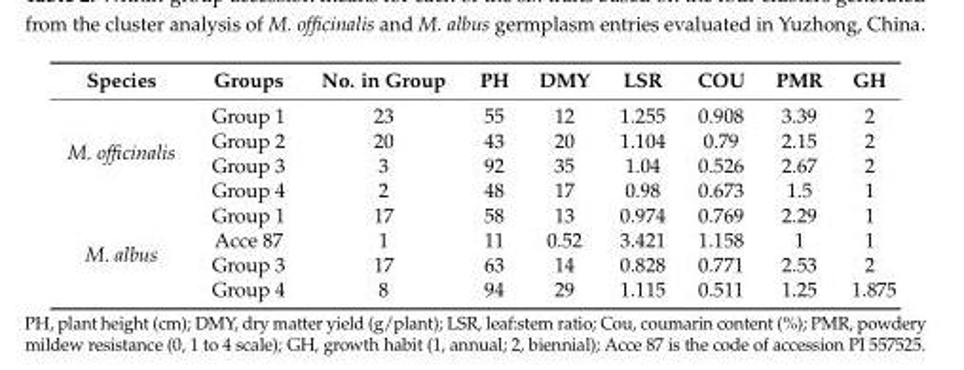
<table><thead><tr><td>Species</td><td>Groups</td><td>No. in Group</td><td>PH</td><td>DMY</td><td>LSR</td><td>COU</td><td>PMR</td><td>GH</td></tr></thead><tbody><tr><td rowspan="4">M. officinalis</td><td>Group 1</td><td>23</td><td>55</td><td>12</td><td>1.255</td><td>0.908</td><td>3.39</td><td>2</td></tr><tr><td>Group 2</td><td>20</td><td>43</td><td>20</td><td>1.104</td><td>0.79</td><td>2.15</td><td>2</td></tr><tr><td>Group 3</td><td>3</td><td>92</td><td>35</td><td>1.04</td><td>0.526</td><td>2.67</td><td>2</td></tr><tr><td>Group 4</td><td>2</td><td>48</td><td>17</td><td>0.98</td><td>0.673</td><td>1.5</td><td>1</td></tr><tr><td rowspan="4">M. albus</td><td>Group 1</td><td>17</td><td>58</td><td>13</td><td>0.974</td><td>0.769</td><td>2.29</td><td>1</td></tr><tr><td>Acce 87</td><td>1</td><td>11</td><td>0.52</td><td>3.421</td><td>1.158</td><td>1</td><td>1</td></tr><tr><td>Group 3</td><td>17</td><td>63</td><td>14</td><td>0.828</td><td>0.771</td><td>2.53</td><td>2</td></tr><tr><td>Group 4</td><td>8</td><td>94</td><td>29</td><td>1.115</td><td>0.511</td><td>1.25</td><td>1.875</td></tr></tbody></table>